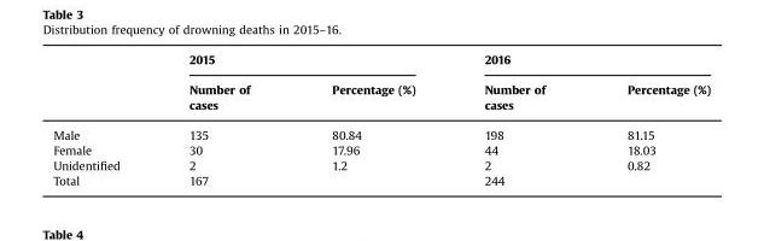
<table><thead><tr><td rowspan="2"></td><td colspan="2">2015</td><td colspan="2">2016</td></tr><tr><td>Number of cases</td><td>Percentage (%)</td><td>Number of cases</td><td>Percentage (%)</td></tr></thead><tbody><tr><td>Male</td><td>135</td><td>80.84</td><td>198</td><td>81.15</td></tr><tr><td>Female</td><td>30</td><td>17.96</td><td>44</td><td>18.03</td></tr><tr><td>Unidentified</td><td>2</td><td>1.2</td><td>2</td><td>0.82</td></tr><tr><td>Total</td><td>167</td><td></td><td>244</td><td></td></tr></tbody></table>